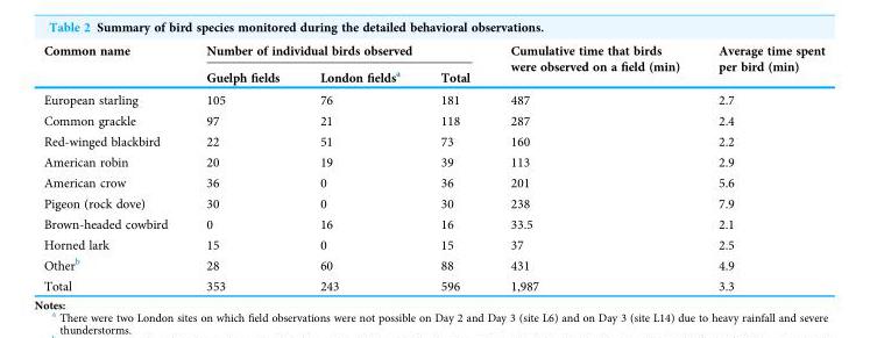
<table><thead><tr><td rowspan="2">Common name</td><td colspan="3">Number of individual birds observed</td><td rowspan="2">Cumulative time that birds were observed on a field (min)</td><td rowspan="2">Average time spent per bird (min)</td></tr><tr><td>Guelph fields</td><td>London fields<sup>a</sup></td><td>Total</td></tr></thead><tbody><tr><td>European starling</td><td>105</td><td>76</td><td>181</td><td>487</td><td>2.7</td></tr><tr><td>Common grackle</td><td>97</td><td>21</td><td>118</td><td>287</td><td>2.4</td></tr><tr><td>Red-winged blackbird</td><td>22</td><td>51</td><td>73</td><td>160</td><td>2.2</td></tr><tr><td>American robin</td><td>20</td><td>19</td><td>39</td><td>113</td><td>2.9</td></tr><tr><td>American crow</td><td>36</td><td>0</td><td>36</td><td>201</td><td>5.6</td></tr><tr><td>Pigeon (rock dove)</td><td>30</td><td>0</td><td>30</td><td>238</td><td>7.9</td></tr><tr><td>Brown-headed cowbird</td><td>0</td><td>16</td><td>16</td><td>33.5</td><td>2.1</td></tr><tr><td>Horned lark</td><td>15</td><td>0</td><td>15</td><td>37</td><td>2.5</td></tr><tr><td>Other<sup>b</sup></td><td>28</td><td>60</td><td>88</td><td>431</td><td>4.9</td></tr><tr><td>Total</td><td>353</td><td>243</td><td>596</td><td>1,987</td><td>3.3</td></tr></tbody></table>